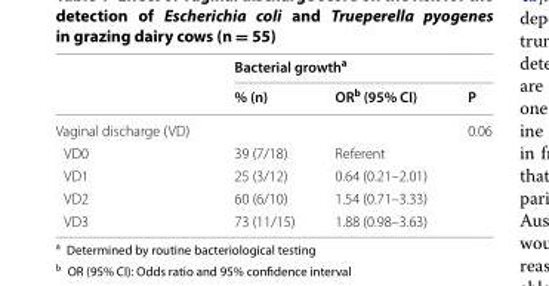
<table><thead><tr><td rowspan="2"></td><td colspan="3">Bacterial growth<sup>a</sup></td></tr><tr><td>% (n)</td><td>OR<sup>b</sup> (95% CI)</td><td>P</td></tr></thead><tbody><tr><td>Vaginal discharge (VD)</td><td></td><td></td><td>0.06</td></tr><tr><td>VD0</td><td>39 (7/18)</td><td>Referent</td><td></td></tr><tr><td>VD1</td><td>25 (3/12)</td><td>0.64 (0.21–2.01)</td><td></td></tr><tr><td>VD2</td><td>60 (6/10)</td><td>1.54 (0.71–3.33)</td><td></td></tr><tr><td>VD3</td><td>73 (11/15)</td><td>1.88 (0.98–3.63)</td><td></td></tr></tbody></table>